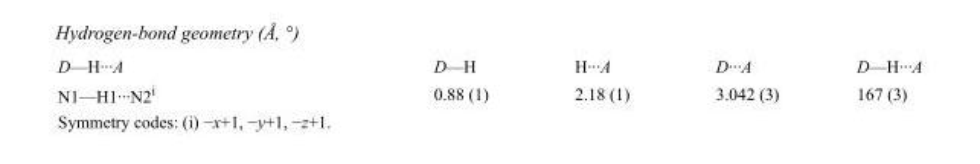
<table><tbody><tr><td>D—H···A</td><td>D—H</td><td>H···A</td><td>D···A</td><td>D—H···A</td></tr><tr><td>N1—H1···N2<sup>i</sup></td><td>0.88 (1)</td><td>2.18 (1)</td><td>3.042 (3)</td><td>167 (3)</td></tr></tbody></table>